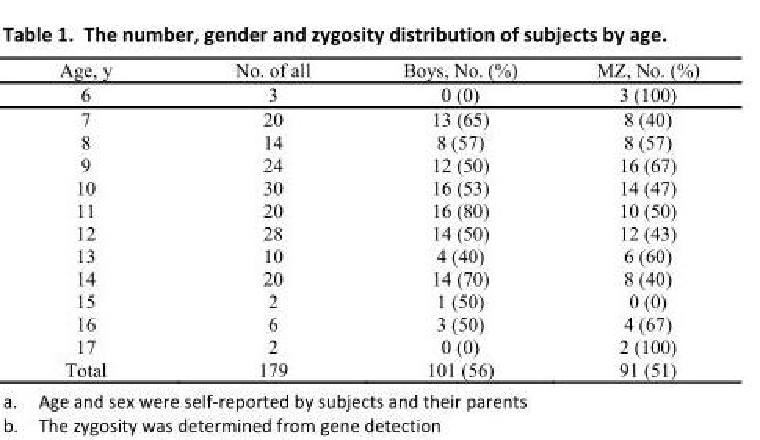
<table><tbody><tr><td>Age, y</td><td>No. of all</td><td>Boys, No. (%)</td><td>MZ, No. (%)</td></tr><tr><td>6</td><td>3</td><td>0 (0)</td><td>3 (100)</td></tr><tr><td>7</td><td>20</td><td>13 (65)</td><td>8 (40)</td></tr><tr><td>8</td><td>14</td><td>8 (57)</td><td>8 (57)</td></tr><tr><td>9</td><td>24</td><td>12 (50)</td><td>16 (67)</td></tr><tr><td>10</td><td>30</td><td>16 (53)</td><td>14 (47)</td></tr><tr><td>11</td><td>20</td><td>16 (80)</td><td>10 (50)</td></tr><tr><td>12</td><td>28</td><td>14 (50)</td><td>12 (43)</td></tr><tr><td>13</td><td>10</td><td>4 (40)</td><td>6 (60)</td></tr><tr><td>14</td><td>20</td><td>14 (70)</td><td>8 (40)</td></tr><tr><td>15</td><td>2</td><td>1 (50)</td><td>0 (0)</td></tr><tr><td>16</td><td>6</td><td>3 (50)</td><td>4 (67)</td></tr><tr><td>17</td><td>2</td><td>0 (0)</td><td>2 (100)</td></tr><tr><td>Total</td><td>179</td><td>101 (56)</td><td>91 (51)</td></tr></tbody></table>